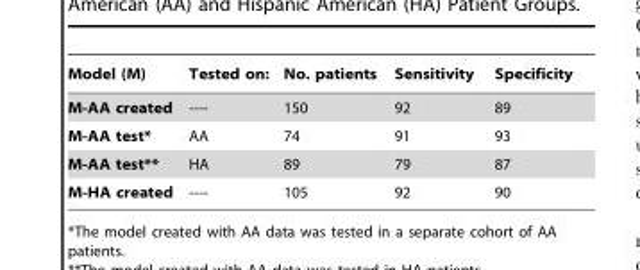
<table><thead><tr><td>Model (M)</td><td>Tested on:</td><td>No. patients</td><td>Sensitivity</td><td>Specificity</td></tr></thead><tbody><tr><td>M-AA created</td><td>----</td><td>150</td><td>92</td><td>89</td></tr><tr><td>M-AA test*</td><td>AA</td><td>74</td><td>91</td><td>93</td></tr><tr><td>M-AA test**</td><td>HA</td><td>89</td><td>79</td><td>87</td></tr><tr><td>M-HA created</td><td>----</td><td>105</td><td>92</td><td>90</td></tr></tbody></table>